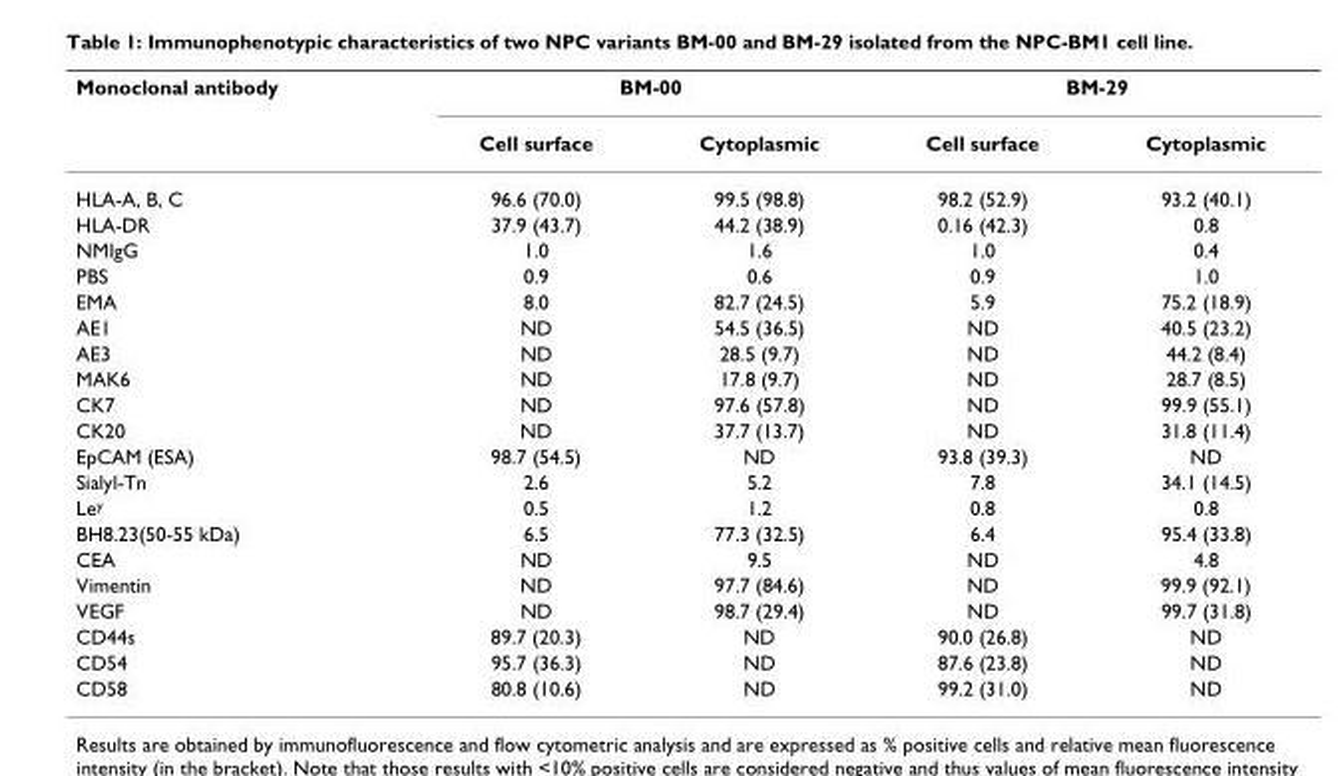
<table><thead><tr><td rowspan="2">Monoclonal antibody</td><td colspan="2">BM-00</td><td colspan="2">BM-29</td></tr><tr><td>Cell surface</td><td>Cytoplasmic</td><td>Cell surface</td><td>Cytoplasmic</td></tr></thead><tbody><tr><td>HLA-A, B, C</td><td>96.6 (70.0)</td><td>99.5 (98.8)</td><td>98.2 (52.9)</td><td>93.2 (40.1)</td></tr><tr><td>HLA-DR</td><td>37.9 (43.7)</td><td>44.2 (38.9)</td><td>0.16 (42.3)</td><td>0.8</td></tr><tr><td>NMIgG</td><td>1.0</td><td>1.6</td><td>1.0</td><td>0.4</td></tr><tr><td>PBS</td><td>0.9</td><td>0.6</td><td>0.9</td><td>1.0</td></tr><tr><td>EMA</td><td>8.0</td><td>82.7 (24.5)</td><td>5.9</td><td>75.2 (18.9)</td></tr><tr><td>AE1</td><td>ND</td><td>54.5 (36.5)</td><td>ND</td><td>40.5 (23.2)</td></tr><tr><td>AE3</td><td>ND</td><td>28.5 (9.7)</td><td>ND</td><td>44.2 (8.4)</td></tr><tr><td>MAK6</td><td>ND</td><td>17.8 (9.7)</td><td>ND</td><td>28.7 (8.5)</td></tr><tr><td>CK7</td><td>ND</td><td>97.6 (57.8)</td><td>ND</td><td>99.9 (55.1)</td></tr><tr><td>CK20</td><td>ND</td><td>37.7 (13.7)</td><td>ND</td><td>31.8 (11.4)</td></tr><tr><td>EpCAM (ESA)</td><td>98.7 (54.5)</td><td>ND</td><td>93.8 (39.3)</td><td>ND</td></tr><tr><td>Sialyl-Tn</td><td>2.6</td><td>5.2</td><td>7.8</td><td>34.1 (14.5)</td></tr><tr><td>Le<sup>y</sup></td><td>0.5</td><td>1.2</td><td>0.8</td><td>0.8</td></tr><tr><td>BH8.23(50-55 kDa)</td><td>6.5</td><td>77.3 (32.5)</td><td>6.4</td><td>95.4 (33.8)</td></tr><tr><td>CEA</td><td>ND</td><td>9.5</td><td>ND</td><td>4.8</td></tr><tr><td>Vimentin</td><td>ND</td><td>97.7 (84.6)</td><td>ND</td><td>99.9 (92.1)</td></tr><tr><td>VEGF</td><td>ND</td><td>98.7 (29.4)</td><td>ND</td><td>99.7 (31.8)</td></tr><tr><td>CD44s</td><td>89.7 (20.3)</td><td>ND</td><td>90.0 (26.8)</td><td>ND</td></tr><tr><td>CD54</td><td>95.7 (36.3)</td><td>ND</td><td>87.6 (23.8)</td><td>ND</td></tr><tr><td>CD58</td><td>80.8 (10.6)</td><td>ND</td><td>99.2 (31.0)</td><td>ND</td></tr></tbody></table>